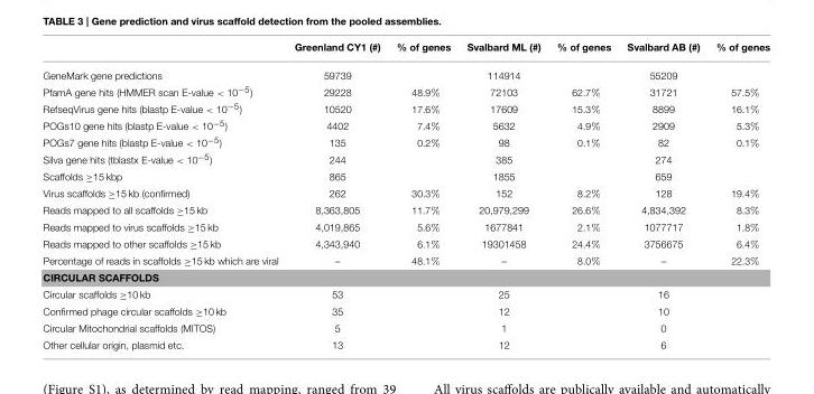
<table><thead><tr><td></td><td>Greenland CY1 (#)</td><td>% of genes</td><td>Svalbard ML (#)</td><td>% of genes</td><td>Svalbard AB (#)</td><td>% of genes</td></tr></thead><tbody><tr><td>GeneMark gene predictions</td><td>59739</td><td></td><td>114914</td><td></td><td>55209</td><td></td></tr><tr><td>PfamA gene hits (HMMER scan E-value &lt; 10<sup>−5</sup>)</td><td>29228</td><td>48.9%</td><td>72103</td><td>62.7%</td><td>31721</td><td>57.5%</td></tr><tr><td>RefseqVirus gene hits (blastp E-value &lt; 10<sup>−5</sup>)</td><td>10520</td><td>17.6%</td><td>17609</td><td>15.3%</td><td>8899</td><td>16.1%</td></tr><tr><td>POGs10 gene hits (blastp E-value &lt; 10<sup>−5</sup>)</td><td>4402</td><td>7.4%</td><td>5632</td><td>4.9%</td><td>2909</td><td>5.3%</td></tr><tr><td>POGs7 gene hits (blastp E-value &lt; 10<sup>−5</sup>)</td><td>135</td><td>0.2%</td><td>98</td><td>0.1%</td><td>82</td><td>0.1%</td></tr><tr><td>Silva gene hits (tblastx E-value &lt; 10<sup>−5</sup>)</td><td>244</td><td></td><td>385</td><td></td><td>274</td><td></td></tr><tr><td>Scaffolds ≥15 kbp</td><td>865</td><td></td><td>1855</td><td></td><td>659</td><td></td></tr><tr><td>Virus scaffolds ≥15 kb (confirmed)</td><td>262</td><td>30.3%</td><td>152</td><td>8.2%</td><td>128</td><td>19.4%</td></tr><tr><td>Reads mapped to all scaffolds ≥15 kb</td><td>8,363,805</td><td>11.7%</td><td>20,979,299</td><td>26.6%</td><td>4,834,392</td><td>8.3%</td></tr><tr><td>Reads mapped to virus scaffolds ≥15 kb</td><td>4,019,865</td><td>5.6%</td><td>1677841</td><td>2.1%</td><td>1077717</td><td>1.8%</td></tr><tr><td>Reads mapped to other scaffolds ≥15 kb</td><td>4,343,940</td><td>6.1%</td><td>19301458</td><td>24.4%</td><td>3756675</td><td>6.4%</td></tr><tr><td>Percentage of reads in scaffolds ≥15 kb which are viral</td><td>–</td><td>48.1%</td><td>–</td><td>8.0%</td><td>–</td><td>22.3%</td></tr><tr><td colspan="7">CIRCULAR SCAFFOLDS</td></tr><tr><td>Circular scaffolds ≥10 kb</td><td>53</td><td></td><td>25</td><td></td><td>16</td><td></td></tr><tr><td>Confirmed phage circular scaffolds ≥10 kb</td><td>35</td><td></td><td>12</td><td></td><td>10</td><td></td></tr><tr><td>Circular Mitochondrial scaffolds (MITOS)</td><td>5</td><td></td><td>1</td><td></td><td>0</td><td></td></tr><tr><td>Other cellular origin, plasmid etc.</td><td>13</td><td></td><td>12</td><td></td><td>6</td><td></td></tr></tbody></table>